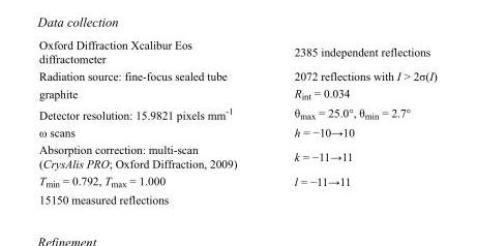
<table><tbody><tr><td>Oxford Diffraction Xcalibur Eos diffractometer</td><td>2385 independent reflections</td></tr><tr><td>Radiation source: fine-focus sealed tube</td><td>2072 reflections with I &gt; 2σ(I)</td></tr><tr><td>graphite</td><td>R<sub>int</sub> = 0.034</td></tr><tr><td>Detector resolution: 15.9821 pixels mm<sup>-1</sup></td><td>θ<sub>max</sub> = 25.0°, θ<sub>min</sub> = 2.7°</td></tr><tr><td>ω scans</td><td>h = −10→10</td></tr><tr><td>Absorption correction: multi-scan (CrysAlis PRO; Oxford Diffraction, 2009)</td><td>k = −11→11</td></tr><tr><td>T<sub>min</sub> = 0.792, T<sub>max</sub> = 1.000</td><td>l = −11→11</td></tr><tr><td>15150 measured reflections</td><td></td></tr></tbody></table>